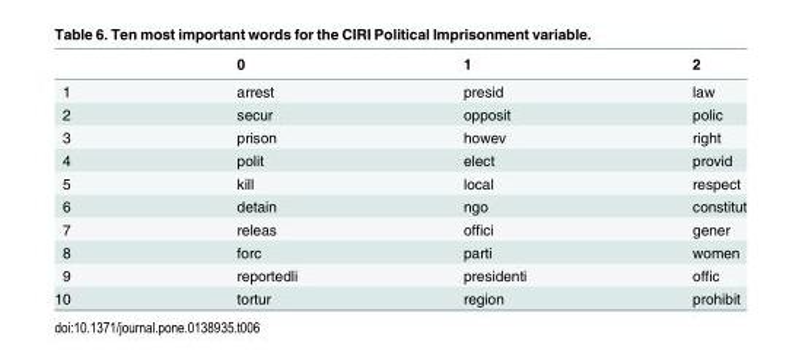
<table><thead><tr><td></td><td>0</td><td>1</td><td>2</td></tr></thead><tbody><tr><td>1</td><td>arrest</td><td>presid</td><td>law</td></tr><tr><td>2</td><td>secur</td><td>opposit</td><td>polic</td></tr><tr><td>3</td><td>prison</td><td>howev</td><td>right</td></tr><tr><td>4</td><td>polit</td><td>elect</td><td>provid</td></tr><tr><td>5</td><td>kill</td><td>local</td><td>respect</td></tr><tr><td>6</td><td>detain</td><td>ngo</td><td>constitut</td></tr><tr><td>7</td><td>releas</td><td>offici</td><td>gener</td></tr><tr><td>8</td><td>forc</td><td>parti</td><td>women</td></tr><tr><td>9</td><td>reportedli</td><td>presidenti</td><td>offic</td></tr><tr><td>10</td><td>tortur</td><td>region</td><td>prohibit</td></tr></tbody></table>